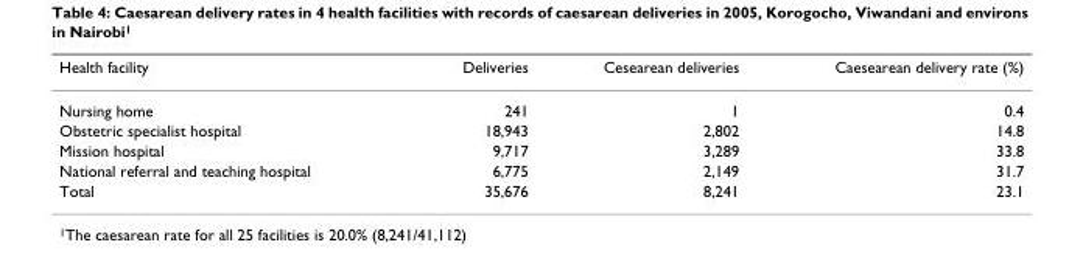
<table><thead><tr><td>Health facility</td><td>Deliveries</td><td>Cesearean deliveries</td><td>Caesearean delivery rate (%)</td></tr></thead><tbody><tr><td>Nursing home</td><td>241</td><td>1</td><td>0.4</td></tr><tr><td>Obstetric specialist hospital</td><td>18,943</td><td>2,802</td><td>14.8</td></tr><tr><td>Mission hospital</td><td>9,717</td><td>3,289</td><td>33.8</td></tr><tr><td>National referral and teaching hospital</td><td>6,775</td><td>2,149</td><td>31.7</td></tr><tr><td>Total</td><td>35,676</td><td>8,241</td><td>23.1</td></tr></tbody></table>